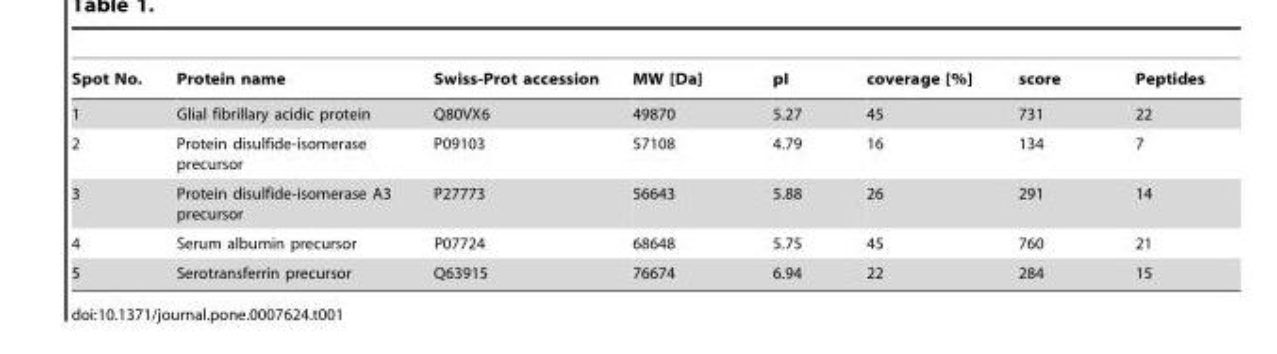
<table><thead><tr><td>Spot No.</td><td>Protein name</td><td>Swiss-Prot accession</td><td>MW [Da]</td><td>pI</td><td>coverage [%]</td><td>score</td><td>Peptides</td></tr></thead><tbody><tr><td>1</td><td>Glial fibrillary acidic protein</td><td>Q80VX6</td><td>49870</td><td>5.27</td><td>45</td><td>731</td><td>22</td></tr><tr><td>2</td><td>Protein disulfide-isomerase precursor</td><td>P09103</td><td>57108</td><td>4.79</td><td>16</td><td>134</td><td>7</td></tr><tr><td>3</td><td>Protein disulfide-isomerase A3 precursor</td><td>P27773</td><td>56643</td><td>5.88</td><td>26</td><td>291</td><td>14</td></tr><tr><td>4</td><td>Serum albumin precursor</td><td>P07724</td><td>68648</td><td>5.75</td><td>45</td><td>760</td><td>21</td></tr><tr><td>5</td><td>Serotransferrin precursor</td><td>Q63915</td><td>76674</td><td>6.94</td><td>22</td><td>284</td><td>15</td></tr></tbody></table>